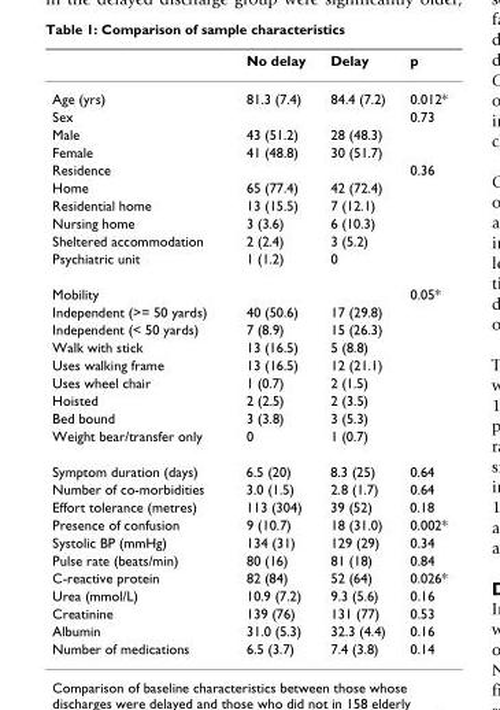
<table><thead><tr><td></td><td>No delay</td><td>Delay</td><td>p</td></tr></thead><tbody><tr><td>Age (yrs)</td><td>81.3 (7.4)</td><td>84.4 (7.2)</td><td>0.012*</td></tr><tr><td>Sex</td><td></td><td></td><td>0.73</td></tr><tr><td>Male</td><td>43 (51.2)</td><td>28 (48.3)</td><td></td></tr><tr><td>Female</td><td>41 (48.8)</td><td>30 (51.7)</td><td></td></tr><tr><td>Residence</td><td></td><td></td><td>0.36</td></tr><tr><td>Home</td><td>65 (77.4)</td><td>42 (72.4)</td><td></td></tr><tr><td>Residential home</td><td>13 (15.5)</td><td>7 (12.1)</td><td></td></tr><tr><td>Nursing home</td><td>3 (3.6)</td><td>6 (10.3)</td><td></td></tr><tr><td>Sheltered accommodation</td><td>2 (2.4)</td><td>3 (5.2)</td><td></td></tr><tr><td>Psychiatric unit</td><td>1 (1.2)</td><td>0</td><td></td></tr><tr><td>Mobility</td><td></td><td></td><td>0.05*</td></tr><tr><td>Independent (&gt;= 50 yards)</td><td>40 (50.6)</td><td>17 (29.8)</td><td></td></tr><tr><td>Independent (&lt; 50 yards)</td><td>7 (8.9)</td><td>15 (26.3)</td><td></td></tr><tr><td>Walk with stick</td><td>13 (16.5)</td><td>5 (8.8)</td><td></td></tr><tr><td>Uses walking frame</td><td>13 (16.5)</td><td>12 (21.1)</td><td></td></tr><tr><td>Uses wheel chair</td><td>1 (0.7)</td><td>2 (1.5)</td><td></td></tr><tr><td>Hoisted</td><td>2 (2.5)</td><td>2 (3.5)</td><td></td></tr><tr><td>Bed bound</td><td>3 (3.8)</td><td>3 (5.3)</td><td></td></tr><tr><td>Weight bear/transfer only</td><td>0</td><td>1 (0.7)</td><td></td></tr><tr><td>Symptom duration (days)</td><td>6.5 (20)</td><td>8.3 (25)</td><td>0.64</td></tr><tr><td>Number of co-morbidities</td><td>3.0 (1.5)</td><td>2.8 (1.7)</td><td>0.64</td></tr><tr><td>Effort tolerance (metres)</td><td>113 (304)</td><td>39 (52)</td><td>0.18</td></tr><tr><td>Presence of confusion</td><td>9 (10.7)</td><td>18 (31.0)</td><td>0.002*</td></tr><tr><td>Systolic BP (mmHg)</td><td>134 (31)</td><td>129 (29)</td><td>0.34</td></tr><tr><td>Pulse rate (beats/min)</td><td>80 (16)</td><td>81 (18)</td><td>0.84</td></tr><tr><td>C-reactive protein</td><td>82 (84)</td><td>52 (64)</td><td>0.026*</td></tr><tr><td>Urea (mmol/L)</td><td>10.9 (7.2)</td><td>9.3 (5.6)</td><td>0.16</td></tr><tr><td>Creatinine</td><td>139 (76)</td><td>131 (77)</td><td>0.53</td></tr><tr><td>Albumin</td><td>31.0 (5.3)</td><td>32.3 (4.4)</td><td>0.16</td></tr><tr><td>Number of medications</td><td>6.5 (3.7)</td><td>7.4 (3.8)</td><td>0.14</td></tr></tbody></table>